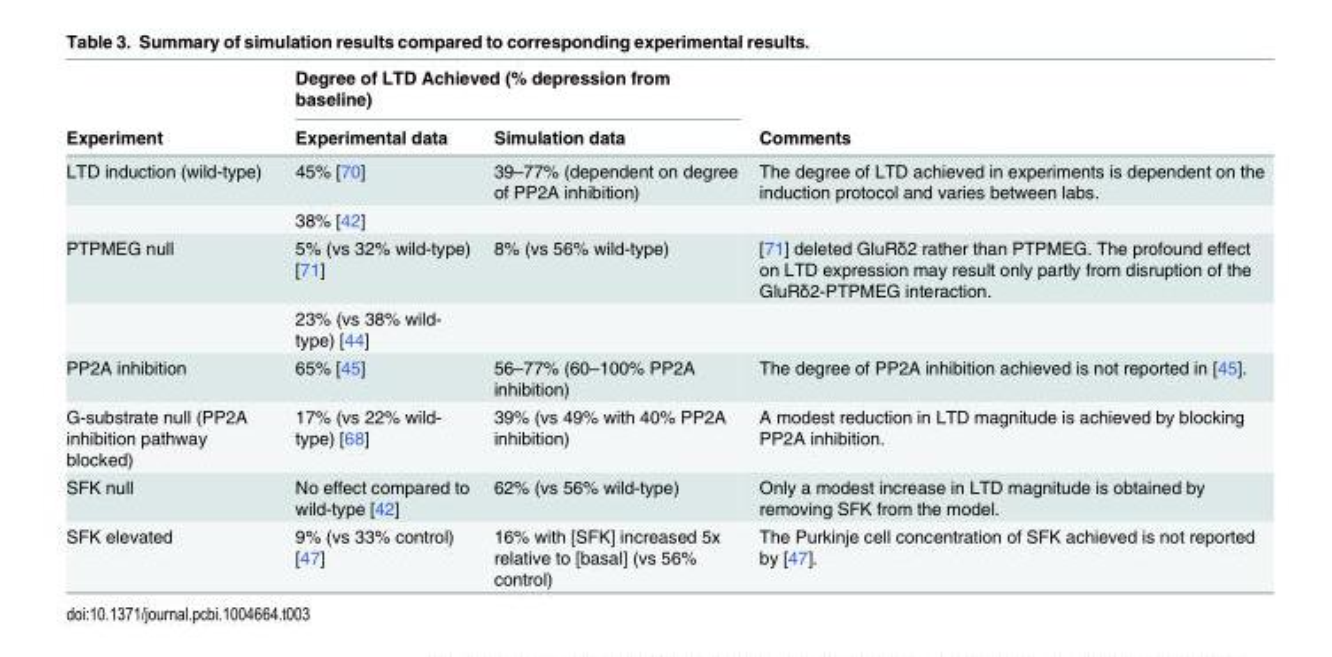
<table><thead><tr><td rowspan="2">Experiment</td><td colspan="2">Degree of LTD Achieved (% depression from baseline)</td><td rowspan="2">Comments</td></tr><tr><td>Experimental data</td><td>Simulation data</td></tr></thead><tbody><tr><td rowspan="2">LTD induction (wild-type)</td><td>45% [70]</td><td>39–77% (dependent on degree of PP2A inhibition)</td><td>The degree of LTD achieved in experiments is dependent on the induction protocol and varies between labs.</td></tr><tr><td>38% [42]</td><td></td><td></td></tr><tr><td rowspan="2">PTPMEG null</td><td>5% (vs 32% wild-type) [71]</td><td>8% (vs 56% wild-type)</td><td>[71] deleted GluRδ2 rather than PTPMEG. The profound effect on LTD expression may result only partly from disruption of the GluRδ2-PTPMEG interaction.</td></tr><tr><td>23% (vs 38% wild- type) [44]</td><td></td><td></td></tr><tr><td>PP2A inhibition</td><td>65% [45]</td><td>56–77% (60–100% PP2A inhibition)</td><td>The degree of PP2A inhibition achieved is not reported in [45].</td></tr><tr><td>G-substrate null (PP2A inhibition pathway blocked)</td><td>17% (vs 22% wild- type) [68]</td><td>39% (vs 49% with 40% PP2A inhibition)</td><td>A modest reduction in LTD magnitude is achieved by blocking PP2A inhibition.</td></tr><tr><td>SFK null</td><td>No effect compared to wild-type [42]</td><td>62% (vs 56% wild-type)</td><td>Only a modest increase in LTD magnitude is obtained by removing SFK from the model.</td></tr><tr><td>SFK elevated</td><td>9% (vs 33% control) [47]</td><td>16% with [SFK] increased 5x relative to [basal] (vs 56% control)</td><td>The Purkinje cell concentration of SFK achieved is not reported by [47].</td></tr></tbody></table>